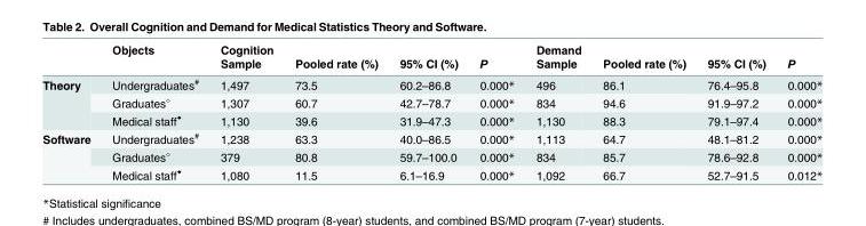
<table><thead><tr><td rowspan="2"></td><td rowspan="2">Objects</td><td rowspan="2">Cognition Sample</td><td rowspan="2">Pooled rate (%)</td><td rowspan="2">95% CI (%)</td><td rowspan="2">P</td><td rowspan="2">Demand Sample</td><td rowspan="2">Pooled rate (%)</td><td rowspan="2">95% CI (%)</td><td rowspan="2">P</td></tr><tr></tr></thead><tbody><tr><td rowspan="3">Theory</td><td>Undergraduates<sup>#</sup></td><td>1,497</td><td>73.5</td><td>60.2–86.8</td><td>0.000*</td><td>496</td><td>86.1</td><td>76.4–95.8</td><td>0.000*</td></tr><tr><td>Graduates<sup>◇</sup></td><td>1,307</td><td>60.7</td><td>42.7–78.7</td><td>0.000*</td><td>834</td><td>94.6</td><td>91.9–97.2</td><td>0.000*</td></tr><tr><td>Medical staff<sup>◆</sup></td><td>1,130</td><td>39.6</td><td>31.9–47.3</td><td>0.000*</td><td>1,130</td><td>88.3</td><td>79.1–97.4</td><td>0.000*</td></tr><tr><td rowspan="3">Software</td><td>Undergraduates<sup>#</sup></td><td>1,238</td><td>63.3</td><td>40.0–86.5</td><td>0.000*</td><td>1,113</td><td>64.7</td><td>48.1–81.2</td><td>0.000*</td></tr><tr><td>Graduates<sup>◇</sup></td><td>379</td><td>80.8</td><td>59.7–100.0</td><td>0.000*</td><td>834</td><td>85.7</td><td>78.6–92.8</td><td>0.000*</td></tr><tr><td>Medical staff<sup>◆</sup></td><td>1,080</td><td>11.5</td><td>6.1–16.9</td><td>0.000*</td><td>1,092</td><td>66.7</td><td>52.7–91.5</td><td>0.012*</td></tr></tbody></table>